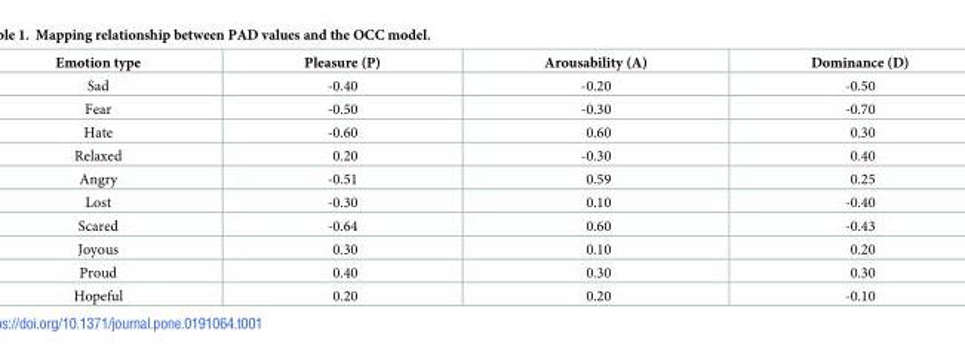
<table><thead><tr><td>Emotion type</td><td>Pleasure (P)</td><td>Arousability (A)</td><td>Dominance (D)</td></tr></thead><tbody><tr><td>Sad</td><td>-0.40</td><td>-0.20</td><td>-0.50</td></tr><tr><td>Fear</td><td>-0.50</td><td>-0.30</td><td>-0.70</td></tr><tr><td>Hate</td><td>-0.60</td><td>0.60</td><td>0.30</td></tr><tr><td>Relaxed</td><td>0.20</td><td>-0.30</td><td>0.40</td></tr><tr><td>Angry</td><td>-0.51</td><td>0.59</td><td>0.25</td></tr><tr><td>Lost</td><td>-0.30</td><td>0.10</td><td>-0.40</td></tr><tr><td>Scared</td><td>-0.64</td><td>0.60</td><td>-0.43</td></tr><tr><td>Joyous</td><td>0.30</td><td>0.10</td><td>0.20</td></tr><tr><td>Proud</td><td>0.40</td><td>0.30</td><td>0.30</td></tr><tr><td>Hopeful</td><td>0.20</td><td>0.20</td><td>-0.10</td></tr></tbody></table>